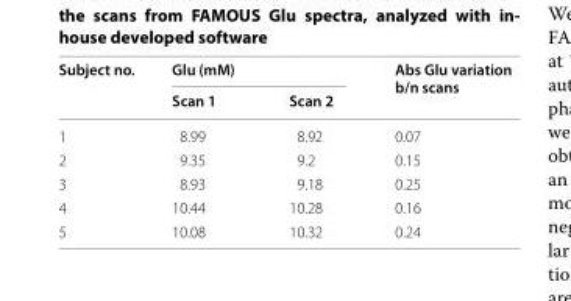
<table><thead><tr><td rowspan="2">Subject no.</td><td colspan="2">Glu (mM)</td><td rowspan="2">Abs Glu variation b/n scans</td></tr><tr><td>Scan 1</td><td>Scan 2</td></tr></thead><tbody><tr><td>1</td><td>8.99</td><td>8.92</td><td>0.07</td></tr><tr><td>2</td><td>9.35</td><td>9.2</td><td>0.15</td></tr><tr><td>3</td><td>8.93</td><td>9.18</td><td>0.25</td></tr><tr><td>4</td><td>10.44</td><td>10.28</td><td>0.16</td></tr><tr><td>5</td><td>10.08</td><td>10.32</td><td>0.24</td></tr></tbody></table>